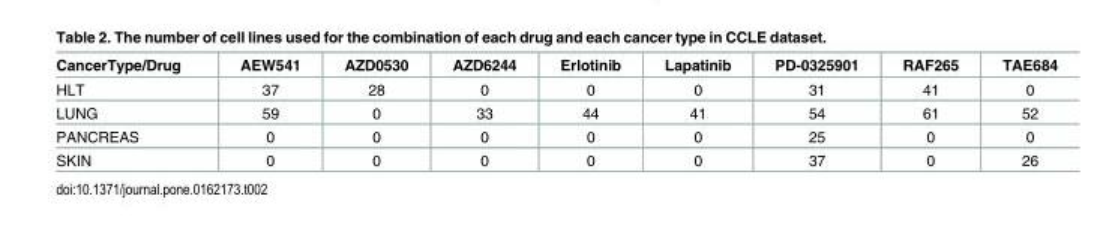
<table><thead><tr><td>CancerType/Drug</td><td>AEW541</td><td>AZD0530</td><td>AZD6244</td><td>Erlotinib</td><td>Lapatinib</td><td>PD-0325901</td><td>RAF265</td><td>TAE684</td></tr></thead><tbody><tr><td>HLT</td><td>37</td><td>28</td><td>0</td><td>0</td><td>0</td><td>31</td><td>41</td><td>0</td></tr><tr><td>LUNG</td><td>59</td><td>0</td><td>33</td><td>44</td><td>41</td><td>54</td><td>61</td><td>52</td></tr><tr><td>PANCREAS</td><td>0</td><td>0</td><td>0</td><td>0</td><td>0</td><td>25</td><td>0</td><td>0</td></tr><tr><td>SKIN</td><td>0</td><td>0</td><td>0</td><td>0</td><td>0</td><td>37</td><td>0</td><td>26</td></tr></tbody></table>